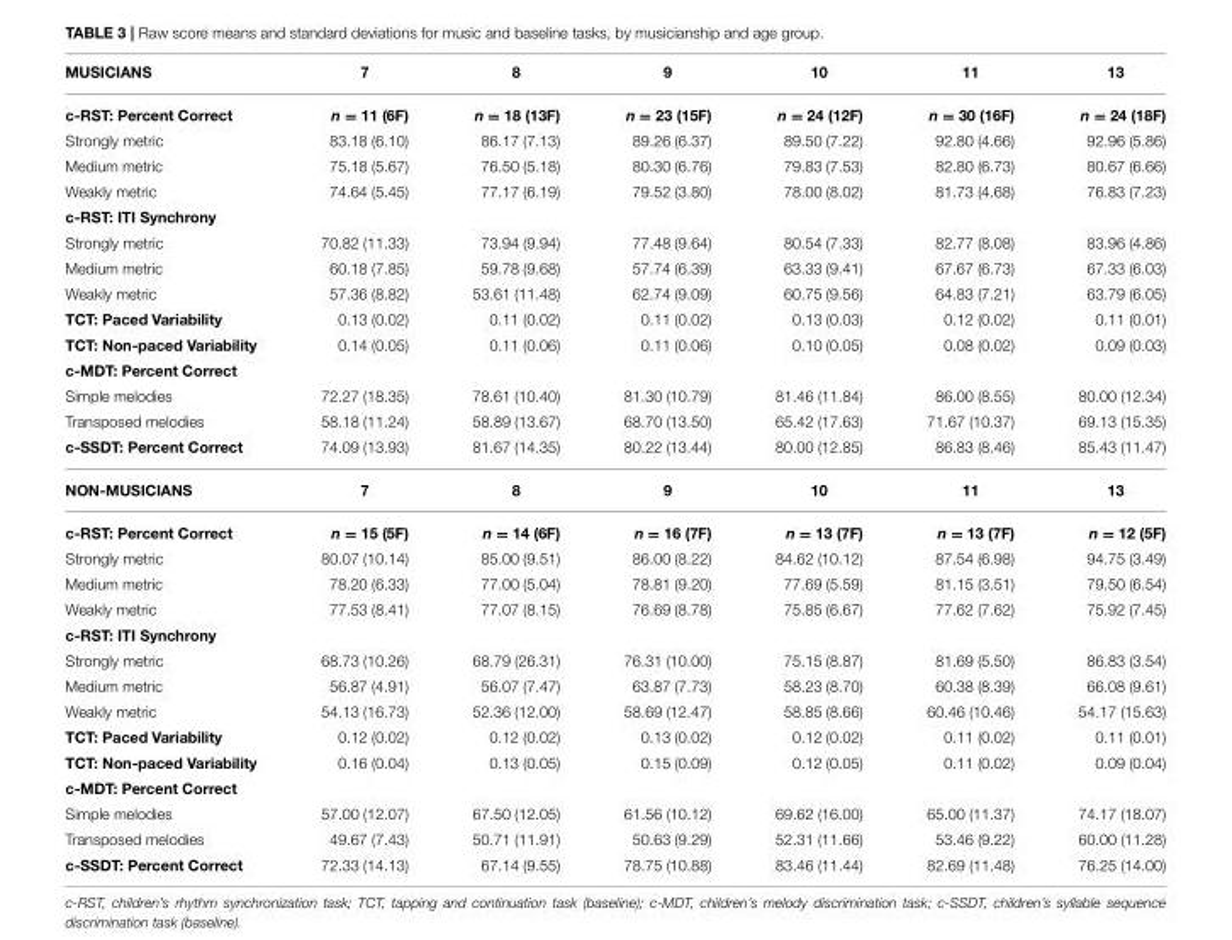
<table><thead><tr><td>MUSICIANS</td><td>7</td><td>8</td><td>9</td><td>10</td><td>11</td><td>13</td></tr></thead><tbody><tr><td>c-RST: Percent Correct</td><td>n = 11 (6F)</td><td>n = 18 (13F)</td><td>n = 23 (15F)</td><td>n = 24 (12F)</td><td>n = 30 (16F)</td><td>n = 24 (18F)</td></tr><tr><td>Strongly metric</td><td>83.18 (6.10)</td><td>86.17 (7.13)</td><td>89.26 (6.37)</td><td>89.50 (7.22)</td><td>92.80 (4.66)</td><td>92.96 (5.86)</td></tr><tr><td>Medium metric</td><td>75.18 (5.67)</td><td>76.50 (5.18)</td><td>80.30 (6.76)</td><td>79.83 (7.53)</td><td>82.80 (6.73)</td><td>80.67 (6.66)</td></tr><tr><td>Weakly metric</td><td>74.64 (5.45)</td><td>77.17 (6.19)</td><td>79.52 (3.80)</td><td>78.00 (8.02)</td><td>81.73 (4.68)</td><td>76.83 (7.23)</td></tr><tr><td colspan="7">c-RST: ITI Synchrony</td></tr><tr><td>Strongly metric</td><td>70.82 (11.33)</td><td>73.94 (9.94)</td><td>77.48 (9.64)</td><td>80.54 (7.33)</td><td>82.77 (8.08)</td><td>83.96 (4.86)</td></tr><tr><td>Medium metric</td><td>60.18 (7.85)</td><td>59.78 (9.68)</td><td>57.74 (6.39)</td><td>63.33 (9.41)</td><td>67.67 (6.73)</td><td>67.33 (6.03)</td></tr><tr><td>Weakly metric</td><td>57.36 (8.82)</td><td>53.61 (11.48)</td><td>62.74 (9.09)</td><td>60.75 (9.56)</td><td>64.83 (7.21)</td><td>63.79 (6.05)</td></tr><tr><td>TCT: Paced Variability</td><td>0.13 (0.02)</td><td>0.11 (0.02)</td><td>0.11 (0.02)</td><td>0.13 (0.03)</td><td>0.12 (0.02)</td><td>0.11 (0.01)</td></tr><tr><td>TCT: Non-paced Variability</td><td>0.14 (0.05)</td><td>0.11 (0.06)</td><td>0.11 (0.06)</td><td>0.10 (0.05)</td><td>0.08 (0.02)</td><td>0.09 (0.03)</td></tr><tr><td colspan="7">c-MDT: Percent Correct</td></tr><tr><td>Simple melodies</td><td>72.27 (18.35)</td><td>78.61 (10.40)</td><td>81.30 (10.79)</td><td>81.46 (11.84)</td><td>86.00 (8.55)</td><td>80.00 (12.34)</td></tr><tr><td>Transposed melodies</td><td>58.18 (11.24)</td><td>58.89 (13.67)</td><td>68.70 (13.50)</td><td>65.42 (17.63)</td><td>71.67 (10.37)</td><td>69.13 (15.35)</td></tr><tr><td>c-SSDT: Percent Correct</td><td>74.09 (13.93)</td><td>81.67 (14.35)</td><td>80.22 (13.44)</td><td>80.00 (12.85)</td><td>86.83 (8.46)</td><td>85.43 (11.47)</td></tr><tr><td>NON-MUSICIANS</td><td>7</td><td>8</td><td>9</td><td>10</td><td>11</td><td>13</td></tr><tr><td>c-RST: Percent Correct</td><td>n = 15 (5F)</td><td>n = 14 (6F)</td><td>n = 16 (7F)</td><td>n = 13 (7F)</td><td>n = 13 (7F)</td><td>n = 12 (5F)</td></tr><tr><td>Strongly metric</td><td>80.07 (10.14)</td><td>85.00 (9.51)</td><td>86.00 (8.22)</td><td>84.62 (10.12)</td><td>87.54 (6.98)</td><td>94.75 (3.49)</td></tr><tr><td>Medium metric</td><td>78.20 (6.33)</td><td>77.00 (5.04)</td><td>78.81 (9.20)</td><td>77.69 (5.59)</td><td>81.15 (3.51)</td><td>79.50 (6.54)</td></tr><tr><td>Weakly metric</td><td>77.53 (8.41)</td><td>77.07 (8.15)</td><td>76.69 (8.78)</td><td>75.85 (6.67)</td><td>77.62 (7.62)</td><td>75.92 (7.45)</td></tr><tr><td colspan="7">c-RST: ITI Synchrony</td></tr><tr><td>Strongly metric</td><td>68.73 (10.26)</td><td>68.79 (26.31)</td><td>76.31 (10.00)</td><td>75.15 (8.87)</td><td>81.69 (5.50)</td><td>86.83 (3.54)</td></tr><tr><td>Medium metric</td><td>56.87 (4.91)</td><td>56.07 (7.47)</td><td>63.87 (7.73)</td><td>58.23 (8.70)</td><td>60.38 (8.39)</td><td>66.08 (9.61)</td></tr><tr><td>Weakly metric</td><td>54.13 (16.73)</td><td>52.36 (12.00)</td><td>58.69 (12.47)</td><td>58.85 (8.66)</td><td>60.46 (10.46)</td><td>54.17 (15.63)</td></tr><tr><td>TCT: Paced Variability</td><td>0.12 (0.02)</td><td>0.12 (0.02)</td><td>0.13 (0.02)</td><td>0.12 (0.02)</td><td>0.11 (0.02)</td><td>0.11 (0.01)</td></tr><tr><td>TCT: Non-paced Variability</td><td>0.16 (0.04)</td><td>0.13 (0.05)</td><td>0.15 (0.09)</td><td>0.12 (0.05)</td><td>0.11 (0.02)</td><td>0.09 (0.04)</td></tr><tr><td colspan="7">c-MDT: Percent Correct</td></tr><tr><td>Simple melodies</td><td>57.00 (12.07)</td><td>67.50 (12.05)</td><td>61.56 (10.12)</td><td>69.62 (16.00)</td><td>65.00 (11.37)</td><td>74.17 (18.07)</td></tr><tr><td>Transposed melodies</td><td>49.67 (7.43)</td><td>50.71 (11.91)</td><td>50.63 (9.29)</td><td>52.31 (11.66)</td><td>53.46 (9.22)</td><td>60.00 (11.28)</td></tr><tr><td>c-SSDT: Percent Correct</td><td>72.33 (14.13)</td><td>67.14 (9.55)</td><td>78.75 (10.88)</td><td>83.46 (11.44)</td><td>82.69 (11.48)</td><td>76.25 (14.00)</td></tr></tbody></table>